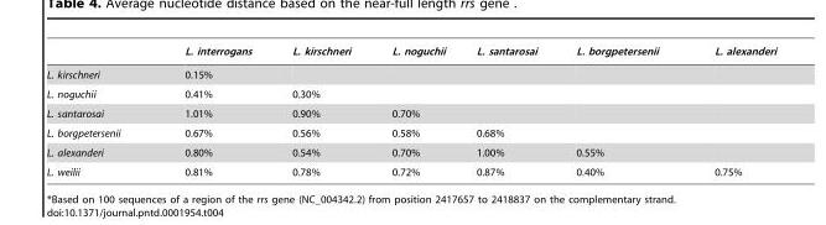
<table><thead><tr><td></td><td>L. interrogans</td><td>L. kirschneri</td><td>L. noguchii</td><td>L. santarosai</td><td>L. borgpetersenii</td><td>L. alexanderi</td></tr></thead><tbody><tr><td>L. kirschneri</td><td>0.15%</td><td></td><td></td><td></td><td></td><td></td></tr><tr><td>L. noguchii</td><td>0.41%</td><td>0.30%</td><td></td><td></td><td></td><td></td></tr><tr><td>L. santarosai</td><td>1.01%</td><td>0.90%</td><td>0.70%</td><td></td><td></td><td></td></tr><tr><td>L. borgpetersenii</td><td>0.67%</td><td>0.56%</td><td>0.58%</td><td>0.68%</td><td></td><td></td></tr><tr><td>L. alexanderi</td><td>0.80%</td><td>0.54%</td><td>0.70%</td><td>1.00%</td><td>0.55%</td><td></td></tr><tr><td>L. weilii</td><td>0.81%</td><td>0.78%</td><td>0.72%</td><td>0.87%</td><td>0.40%</td><td>0.75%</td></tr></tbody></table>